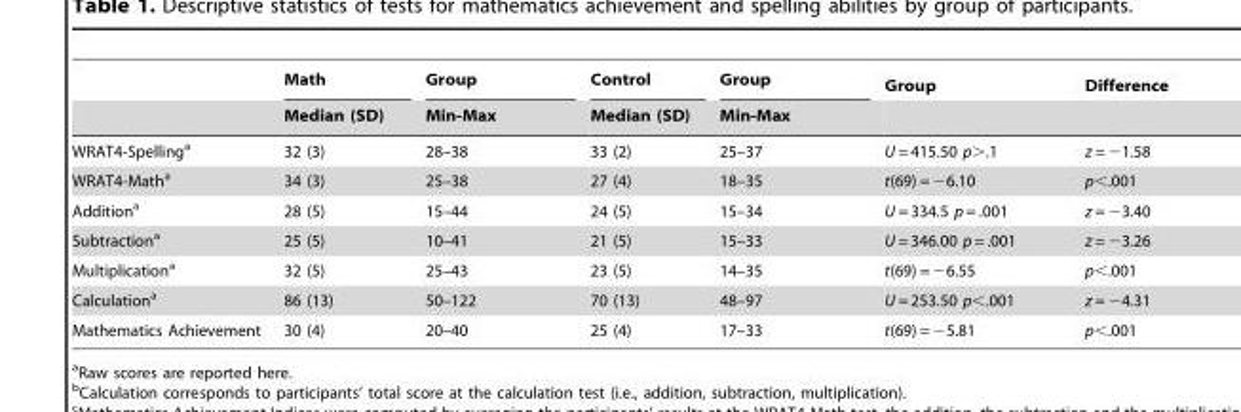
<table><thead><tr><td rowspan="2"></td><td rowspan="2">Math Median (SD)</td><td rowspan="2">Group Min-Max</td><td rowspan="2">Control Median (SD)</td><td rowspan="2">Group Min-Max</td><td rowspan="2">Group</td><td rowspan="2">Difference</td></tr><tr></tr></thead><tbody><tr><td>WRAT4-Spelling<sup>a</sup></td><td>32 (3)</td><td>28–38</td><td>33 (2)</td><td>25–37</td><td>U = 415.50 p&gt;.1</td><td>z = −1.58</td></tr><tr><td>WRAT4-Math<sup>a</sup></td><td>34 (3)</td><td>25–38</td><td>27 (4)</td><td>18–35</td><td>t(69) = −6.10</td><td>p&lt;.001</td></tr><tr><td>Addition<sup>a</sup></td><td>28 (5)</td><td>15–44</td><td>24 (5)</td><td>15–34</td><td>U = 334.5 p = .001</td><td>z = −3.40</td></tr><tr><td>Subtraction<sup>a</sup></td><td>25 (5)</td><td>10–41</td><td>21 (5)</td><td>15–33</td><td>U = 346.00 p = .001</td><td>z = −3.26</td></tr><tr><td>Multiplication<sup>a</sup></td><td>32 (5)</td><td>25–43</td><td>23 (5)</td><td>14–35</td><td>t(69) = −6.55</td><td>p&lt;.001</td></tr><tr><td>Calculation<sup>a</sup></td><td>86 (13)</td><td>50–122</td><td>70 (13)</td><td>48–97</td><td>U = 253.50 p&lt;.001</td><td>z = −4.31</td></tr><tr><td>Mathematics Achievement</td><td>30 (4)</td><td>20–40</td><td>25 (4)</td><td>17–33</td><td>t(69) = −5.81</td><td>p&lt;.001</td></tr></tbody></table>